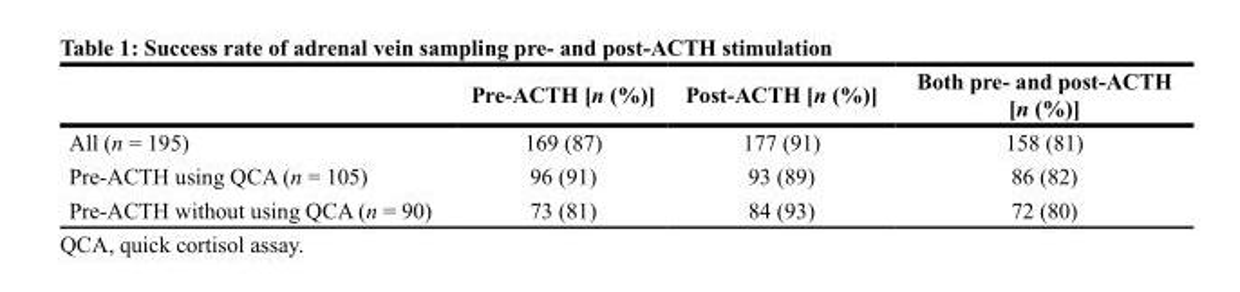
<table><thead><tr><td></td><td>Pre-ACTH [n (%)]</td><td>Post-ACTH [n (%)]</td><td>Both pre- and post-ACTH [n (%)]</td></tr></thead><tbody><tr><td>All (n = 195)</td><td>169 (87)</td><td>177 (91)</td><td>158 (81)</td></tr><tr><td>Pre-ACTH using QCA (n = 105)</td><td>96 (91)</td><td>93 (89)</td><td>86 (82)</td></tr><tr><td>Pre-ACTH without using QCA (n = 90)</td><td>73 (81)</td><td>84 (93)</td><td>72 (80)</td></tr></tbody></table>